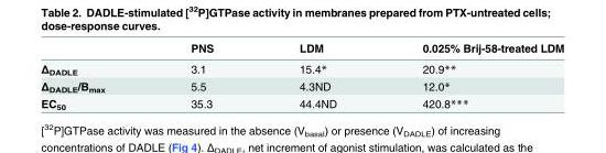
<table><thead><tr><td></td><td>PNS</td><td>LDM</td><td>0.025% Brij-58-treated LDM</td></tr></thead><tbody><tr><td>Δ<sub>DADLE</sub></td><td>3.1</td><td>15.4*</td><td>20.9**</td></tr><tr><td>Δ<sub>DADLE</sub>/B<sub>max</sub></td><td>5.5</td><td>4.3ND</td><td>12.0*</td></tr><tr><td>EC<sub>50</sub></td><td>35.3</td><td>44.4ND</td><td>420.8***</td></tr></tbody></table>